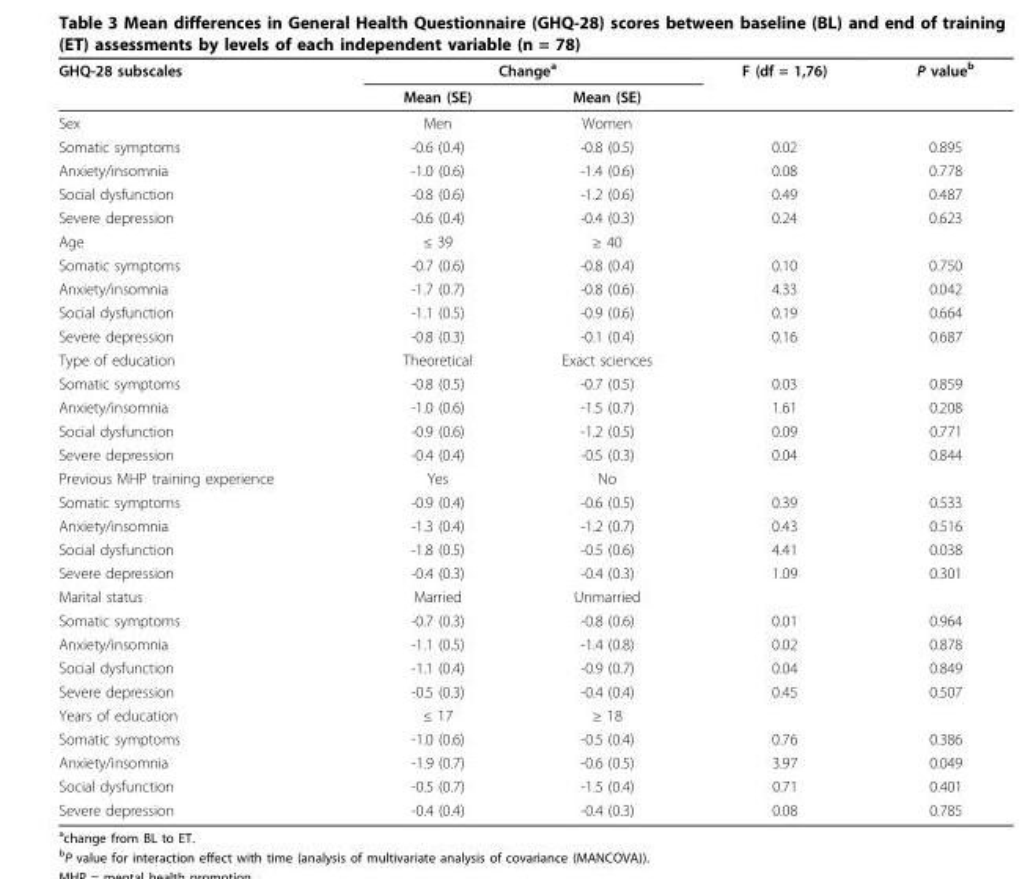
<table><thead><tr><td rowspan="2">GHQ-28 subscales</td><td colspan="2">Change<sup>a</sup></td><td rowspan="2">F (df = 1,76)</td><td rowspan="2">P value<sup>b</sup></td></tr><tr><td>Mean (SE)</td><td>Mean (SE)</td></tr></thead><tbody><tr><td>Sex</td><td>Men</td><td>Women</td><td></td><td></td></tr><tr><td>Somatic symptoms</td><td>-0.6 (0.4)</td><td>-0.8 (0.5)</td><td>0.02</td><td>0.895</td></tr><tr><td>Anxiety/insomnia</td><td>-1.0 (0.6)</td><td>-1.4 (0.6)</td><td>0.08</td><td>0.778</td></tr><tr><td>Social dysfunction</td><td>-0.8 (0.6)</td><td>-1.2 (0.6)</td><td>0.49</td><td>0.487</td></tr><tr><td>Severe depression</td><td>-0.6 (0.4)</td><td>-0.4 (0.3)</td><td>0.24</td><td>0.623</td></tr><tr><td>Age</td><td>≤ 39</td><td>≥ 40</td><td></td><td></td></tr><tr><td>Somatic symptoms</td><td>-0.7 (0.6)</td><td>-0.8 (0.4)</td><td>0.10</td><td>0.750</td></tr><tr><td>Anxiety/insomnia</td><td>-1.7 (0.7)</td><td>-0.8 (0.6)</td><td>4.33</td><td>0.042</td></tr><tr><td>Social dysfunction</td><td>-1.1 (0.5)</td><td>-0.9 (0.6)</td><td>0.19</td><td>0.664</td></tr><tr><td>Severe depression</td><td>-0.8 (0.3)</td><td>-0.1 (0.4)</td><td>0.16</td><td>0.687</td></tr><tr><td>Type of education</td><td>Theoretical</td><td>Exact sciences</td><td></td><td></td></tr><tr><td>Somatic symptoms</td><td>-0.8 (0.5)</td><td>-0.7 (0.5)</td><td>0.03</td><td>0.859</td></tr><tr><td>Anxiety/insomnia</td><td>-1.0 (0.6)</td><td>-1.5 (0.7)</td><td>1.61</td><td>0.208</td></tr><tr><td>Social dysfunction</td><td>-0.9 (0.6)</td><td>-1.2 (0.5)</td><td>0.09</td><td>0.771</td></tr><tr><td>Severe depression</td><td>-0.4 (0.4)</td><td>-0.5 (0.3)</td><td>0.04</td><td>0.844</td></tr><tr><td>Previous MHP training experience</td><td>Yes</td><td>No</td><td></td><td></td></tr><tr><td>Somatic symptoms</td><td>-0.9 (0.4)</td><td>-0.6 (0.5)</td><td>0.39</td><td>0.533</td></tr><tr><td>Anxiety/insomnia</td><td>-1.3 (0.4)</td><td>-1.2 (0.7)</td><td>0.43</td><td>0.516</td></tr><tr><td>Social dysfunction</td><td>-1.8 (0.5)</td><td>-0.5 (0.6)</td><td>4.41</td><td>0.038</td></tr><tr><td>Severe depression</td><td>-0.4 (0.3)</td><td>-0.4 (0.3)</td><td>1.09</td><td>0.301</td></tr><tr><td>Marital status</td><td>Married</td><td>Unmarried</td><td></td><td></td></tr><tr><td>Somatic symptoms</td><td>-0.7 (0.3)</td><td>-0.8 (0.6)</td><td>0.01</td><td>0.964</td></tr><tr><td>Anxiety/insomnia</td><td>-1.1 (0.5)</td><td>-1.4 (0.8)</td><td>0.02</td><td>0.878</td></tr><tr><td>Social dysfunction</td><td>-1.1 (0.4)</td><td>-0.9 (0.7)</td><td>0.04</td><td>0.849</td></tr><tr><td>Severe depression</td><td>-0.5 (0.3)</td><td>-0.4 (0.4)</td><td>0.45</td><td>0.507</td></tr><tr><td>Years of education</td><td>≤ 17</td><td>≥ 18</td><td></td><td></td></tr><tr><td>Somatic symptoms</td><td>-1.0 (0.6)</td><td>-0.5 (0.4)</td><td>0.76</td><td>0.386</td></tr><tr><td>Anxiety/insomnia</td><td>-1.9 (0.7)</td><td>-0.6 (0.5)</td><td>3.97</td><td>0.049</td></tr><tr><td>Social dysfunction</td><td>-0.5 (0.7)</td><td>-1.5 (0.4)</td><td>0.71</td><td>0.401</td></tr><tr><td>Severe depression</td><td>-0.4 (0.4)</td><td>-0.4 (0.3)</td><td>0.08</td><td>0.785</td></tr></tbody></table>